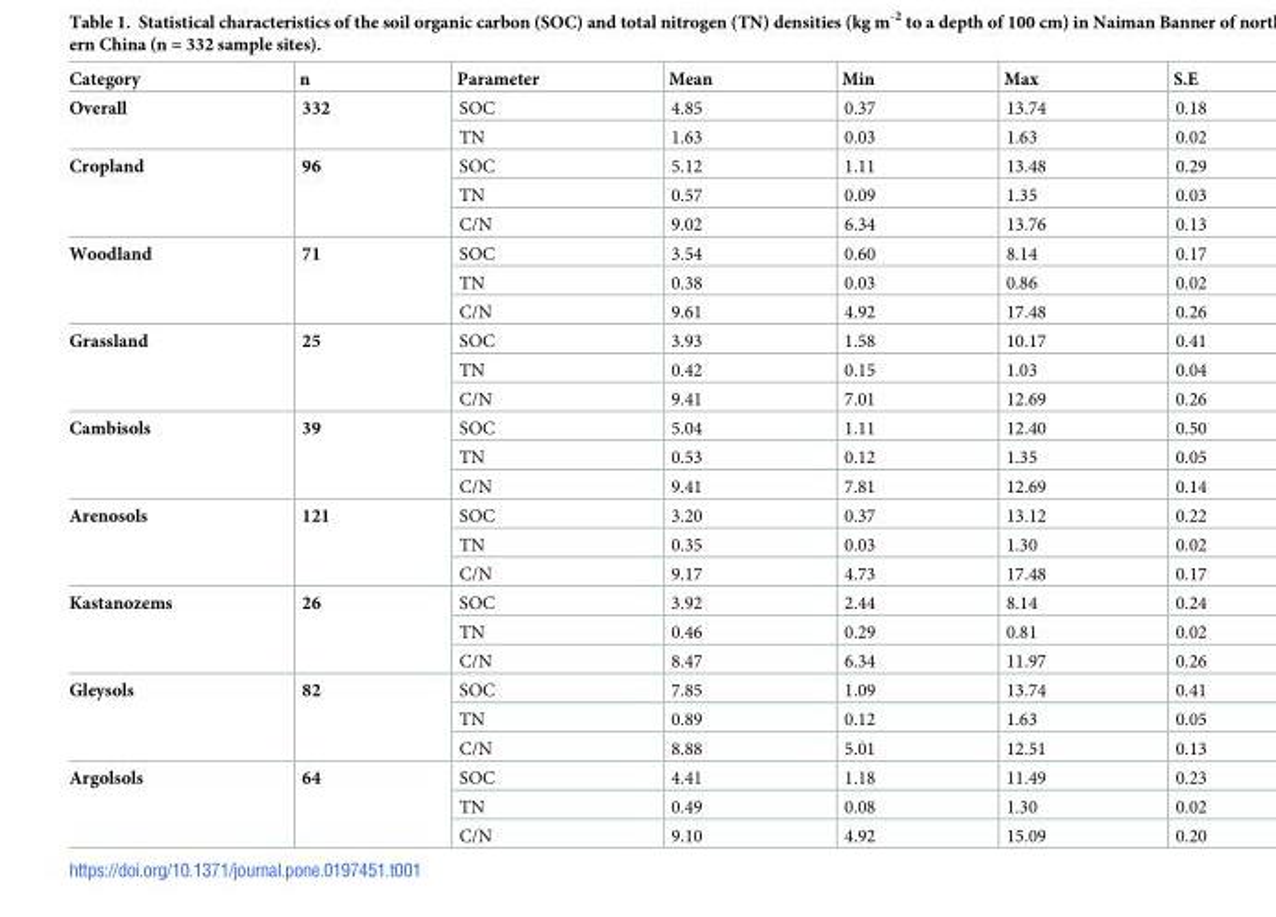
<table><thead><tr><td>Category</td><td>n</td><td>Parameter</td><td>Mean</td><td>Min</td><td>Max</td><td>S.E</td></tr></thead><tbody><tr><td rowspan="2">Overall</td><td rowspan="2">332</td><td>SOC</td><td>4.85</td><td>0.37</td><td>13.74</td><td>0.18</td></tr><tr><td>TN</td><td>1.63</td><td>0.03</td><td>1.63</td><td>0.02</td></tr><tr><td rowspan="3">Cropland</td><td rowspan="3">96</td><td>SOC</td><td>5.12</td><td>1.11</td><td>13.48</td><td>0.29</td></tr><tr><td>TN</td><td>0.57</td><td>0.09</td><td>1.35</td><td>0.03</td></tr><tr><td>C/N</td><td>9.02</td><td>6.34</td><td>13.76</td><td>0.13</td></tr><tr><td rowspan="3">Woodland</td><td rowspan="3">71</td><td>SOC</td><td>3.54</td><td>0.60</td><td>8.14</td><td>0.17</td></tr><tr><td>TN</td><td>0.38</td><td>0.03</td><td>0.86</td><td>0.02</td></tr><tr><td>C/N</td><td>9.61</td><td>4.92</td><td>17.48</td><td>0.26</td></tr><tr><td rowspan="3">Grassland</td><td rowspan="3">25</td><td>SOC</td><td>3.93</td><td>1.58</td><td>10.17</td><td>0.41</td></tr><tr><td>TN</td><td>0.42</td><td>0.15</td><td>1.03</td><td>0.04</td></tr><tr><td>C/N</td><td>9.41</td><td>7.01</td><td>12.69</td><td>0.26</td></tr><tr><td rowspan="3">Cambisols</td><td rowspan="3">39</td><td>SOC</td><td>5.04</td><td>1.11</td><td>12.40</td><td>0.50</td></tr><tr><td>TN</td><td>0.53</td><td>0.12</td><td>1.35</td><td>0.05</td></tr><tr><td>C/N</td><td>9.41</td><td>7.81</td><td>12.69</td><td>0.14</td></tr><tr><td rowspan="3">Arenosols</td><td rowspan="3">121</td><td>SOC</td><td>3.20</td><td>0.37</td><td>13.12</td><td>0.22</td></tr><tr><td>TN</td><td>0.35</td><td>0.03</td><td>1.30</td><td>0.02</td></tr><tr><td>C/N</td><td>9.17</td><td>4.73</td><td>17.48</td><td>0.17</td></tr><tr><td rowspan="3">Kastanozems</td><td rowspan="3">26</td><td>SOC</td><td>3.92</td><td>2.44</td><td>8.14</td><td>0.24</td></tr><tr><td>TN</td><td>0.46</td><td>0.29</td><td>0.81</td><td>0.02</td></tr><tr><td>C/N</td><td>8.47</td><td>6.34</td><td>11.97</td><td>0.26</td></tr><tr><td rowspan="3">Gleysols</td><td rowspan="3">82</td><td>SOC</td><td>7.85</td><td>1.09</td><td>13.74</td><td>0.41</td></tr><tr><td>TN</td><td>0.89</td><td>0.12</td><td>1.63</td><td>0.05</td></tr><tr><td>C/N</td><td>8.88</td><td>5.01</td><td>12.51</td><td>0.13</td></tr><tr><td rowspan="3">Argolsols</td><td rowspan="3">64</td><td>SOC</td><td>4.41</td><td>1.18</td><td>11.49</td><td>0.23</td></tr><tr><td>TN</td><td>0.49</td><td>0.08</td><td>1.30</td><td>0.02</td></tr><tr><td>C/N</td><td>9.10</td><td>4.92</td><td>15.09</td><td>0.20</td></tr></tbody></table>